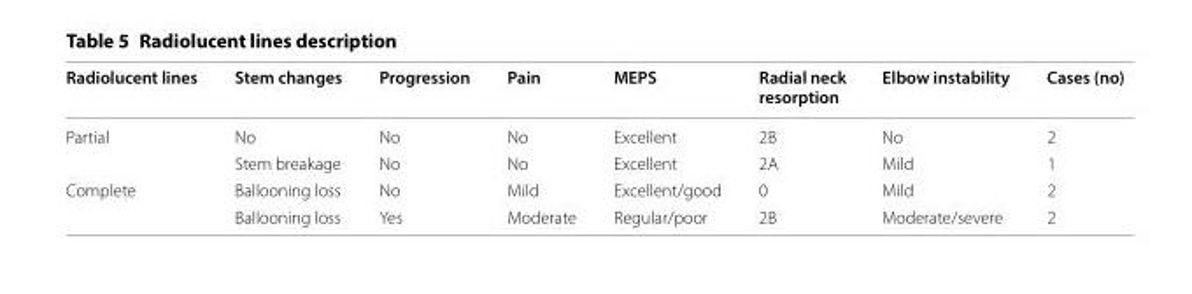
<table><thead><tr><td>Radiolucent lines</td><td>Stem changes</td><td>Progression</td><td>Pain</td><td>MEPS</td><td>Radial neck resorption</td><td>Elbow instability</td><td>Cases (no)</td></tr></thead><tbody><tr><td rowspan="2">Partial</td><td>No</td><td>No</td><td>No</td><td>Excellent</td><td>2B</td><td>No</td><td>2</td></tr><tr><td>Stem breakage</td><td>No</td><td>No</td><td>Excellent</td><td>2A</td><td>Mild</td><td>1</td></tr><tr><td rowspan="2">Complete</td><td>Ballooning loss</td><td>No</td><td>Mild</td><td>Excellent/good</td><td>0</td><td>Mild</td><td>2</td></tr><tr><td>Ballooning loss</td><td>Yes</td><td>Moderate</td><td>Regular/poor</td><td>2B</td><td>Moderate/severe</td><td>2</td></tr></tbody></table>